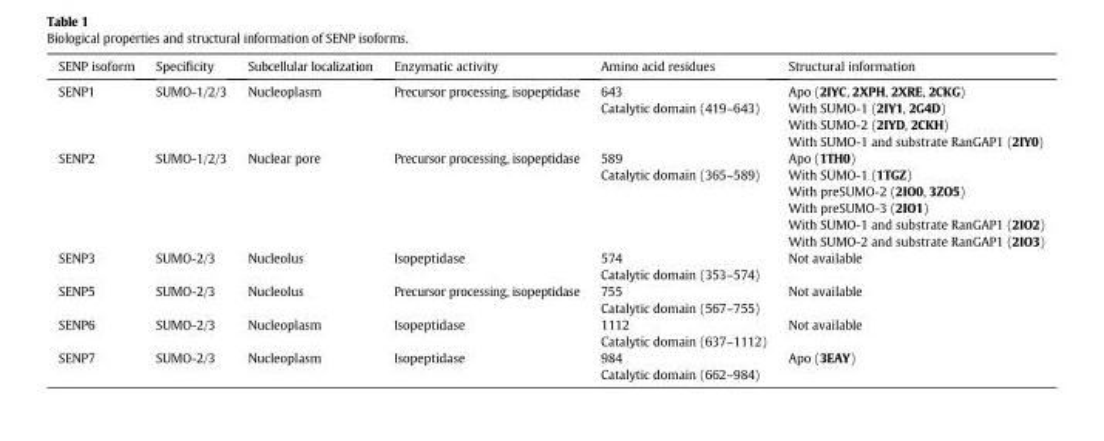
<table><thead><tr><td>SENP isoform</td><td>Specificity</td><td>Subcellular localization</td><td>Enzymatic activity</td><td>Amino acid residues</td><td>Structural information</td></tr></thead><tbody><tr><td>SENP1</td><td>SUMO-1/2/3</td><td>Nucleoplasm</td><td>Precursor processing, isopeptidase</td><td>643 Catalytic domain (419–643)</td><td>Apo (2IYC, 2XPH, 2XRE, 2CKG) With SUMO-1 (2IY1, 2G4D) With SUMO-2 (2IYD, 2CKH) With SUMO-1 and substrate RanGAP1 (2IY0)</td></tr><tr><td>SENP2</td><td>SUMO-1/2/3</td><td>Nuclear pore</td><td>Precursor processing, isopeptidase</td><td>589 Catalytic domain (365–589)</td><td>Apo (1TH0) With SUMO-1 (1TGZ) With preSUMO-2 (2IO0, 3ZO5) With preSUMO-3 (2IO1) With SUMO-1 and substrate RanGAP1 (2IO2) With SUMO-2 and substrate RanGAP1 (2IO3)</td></tr><tr><td>SENP3</td><td>SUMO-2/3</td><td>Nucleolus</td><td>Isopeptidase</td><td>574 Catalytic domain (353–574)</td><td>Not available</td></tr><tr><td>SENP5</td><td>SUMO-2/3</td><td>Nucleolus</td><td>Precursor processing, isopeptidase</td><td>755 Catalytic domain (567–755)</td><td>Not available</td></tr><tr><td>SENP6</td><td>SUMO-2/3</td><td>Nucleoplasm</td><td>Isopeptidase</td><td>1112 Catalytic domain (637–1112)</td><td>Not available</td></tr><tr><td>SENP7</td><td>SUMO-2/3</td><td>Nucleoplasm</td><td>Isopeptidase</td><td>984 Catalytic domain (662–984)</td><td>Apo (3EAY)</td></tr></tbody></table>